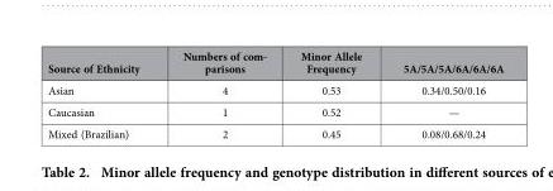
<table><thead><tr><td>Source of Ethnicity</td><td>Numbers of com- parisons</td><td>Minor Allele Frequency</td><td>5A/5A/5A/6A/6A/6A</td></tr></thead><tbody><tr><td>Asian</td><td>4</td><td>0.53</td><td>0.34/0.50/0.16</td></tr><tr><td>Caucasian</td><td>1</td><td>0.52</td><td>—</td></tr><tr><td>Mixed (Brazilian)</td><td>2</td><td>0.45</td><td>0.08/0.68/0.24</td></tr></tbody></table>